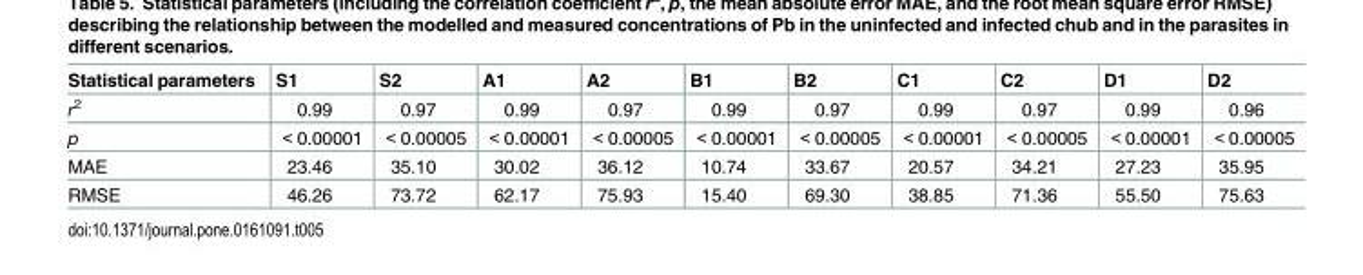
<table><thead><tr><td>Statistical parameters</td><td>S1</td><td>S2</td><td>A1</td><td>A2</td><td>B1</td><td>B2</td><td>C1</td><td>C2</td><td>D1</td><td>D2</td></tr></thead><tbody><tr><td>r<sup>2</sup></td><td>0.99</td><td>0.97</td><td>0.99</td><td>0.97</td><td>0.99</td><td>0.97</td><td>0.99</td><td>0.97</td><td>0.99</td><td>0.96</td></tr><tr><td>p</td><td>&lt; 0.00001</td><td>&lt; 0.00005</td><td>&lt; 0.00001</td><td>&lt; 0.00005</td><td>&lt; 0.00001</td><td>&lt; 0.00005</td><td>&lt; 0.00001</td><td>&lt; 0.00005</td><td>&lt; 0.00001</td><td>&lt; 0.00005</td></tr><tr><td>MAE</td><td>23.46</td><td>35.10</td><td>30.02</td><td>36.12</td><td>10.74</td><td>33.67</td><td>20.57</td><td>34.21</td><td>27.23</td><td>35.95</td></tr><tr><td>RMSE</td><td>46.26</td><td>73.72</td><td>62.17</td><td>75.93</td><td>15.40</td><td>69.30</td><td>38.85</td><td>71.36</td><td>55.50</td><td>75.63</td></tr></tbody></table>